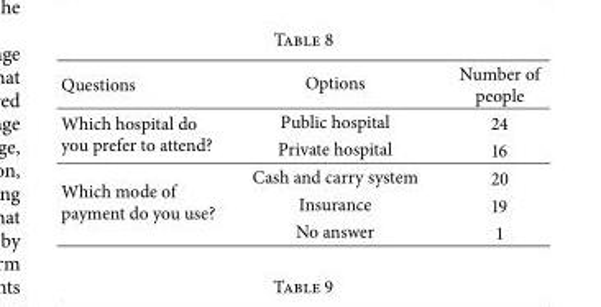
<table><thead><tr><td>Questions</td><td>Options</td><td>Number of people</td></tr></thead><tbody><tr><td rowspan="2">Which hospital do you prefer to attend?</td><td>Public hospital</td><td>24</td></tr><tr><td>Private hospital</td><td>16</td></tr><tr><td rowspan="3">Which mode of payment do you use?</td><td>Cash and carry system</td><td>20</td></tr><tr><td>Insurance</td><td>19</td></tr><tr><td>No answer</td><td>1</td></tr></tbody></table>